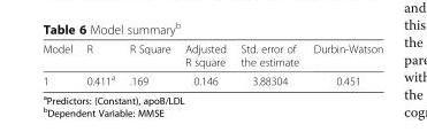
<table><thead><tr><td>Model</td><td>R</td><td>R Square</td><td>Adjusted R square</td><td>Std. error of the estimate</td><td>Durbin-Watson</td></tr></thead><tbody><tr><td>1</td><td>0.411<sup>a</sup></td><td>.169</td><td>0.146</td><td>3.88304</td><td>0.451</td></tr></tbody></table>